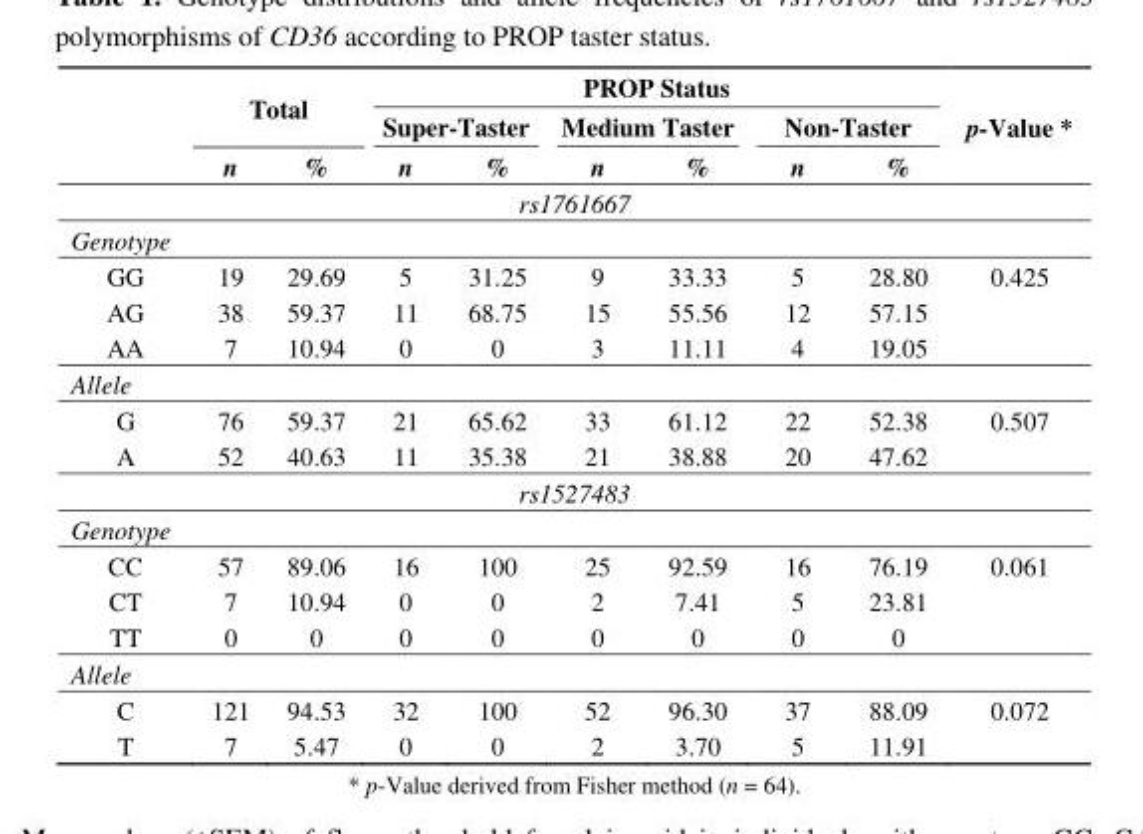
<table><thead><tr><td rowspan="3"></td><td rowspan="2" colspan="2">Total</td><td colspan="6">PROP Status</td><td rowspan="3">p-Value *</td></tr><tr><td colspan="2">Super-Taster</td><td colspan="2">Medium Taster</td><td colspan="2">Non-Taster</td></tr><tr><td>n</td><td>%</td><td>n</td><td>%</td><td>n</td><td>%</td><td>n</td><td>%</td></tr></thead><tbody><tr><td colspan="10">rs1761667</td></tr><tr><td colspan="10">Genotype</td></tr><tr><td>GG</td><td>19</td><td>29.69</td><td>5</td><td>31.25</td><td>9</td><td>33.33</td><td>5</td><td>28.80</td><td>0.425</td></tr><tr><td>AG</td><td>38</td><td>59.37</td><td>11</td><td>68.75</td><td>15</td><td>55.56</td><td>12</td><td>57.15</td><td></td></tr><tr><td>AA</td><td>7</td><td>10.94</td><td>0</td><td>0</td><td>3</td><td>11.11</td><td>4</td><td>19.05</td><td></td></tr><tr><td colspan="10">Allele</td></tr><tr><td>G</td><td>76</td><td>59.37</td><td>21</td><td>65.62</td><td>33</td><td>61.12</td><td>22</td><td>52.38</td><td>0.507</td></tr><tr><td>A</td><td>52</td><td>40.63</td><td>11</td><td>35.38</td><td>21</td><td>38.88</td><td>20</td><td>47.62</td><td></td></tr><tr><td colspan="10">rs1527483</td></tr><tr><td colspan="10">Genotype</td></tr><tr><td>CC</td><td>57</td><td>89.06</td><td>16</td><td>100</td><td>25</td><td>92.59</td><td>16</td><td>76.19</td><td>0.061</td></tr><tr><td>CT</td><td>7</td><td>10.94</td><td>0</td><td>0</td><td>2</td><td>7.41</td><td>5</td><td>23.81</td><td></td></tr><tr><td>TT</td><td>0</td><td>0</td><td>0</td><td>0</td><td>0</td><td>0</td><td>0</td><td>0</td><td></td></tr><tr><td colspan="10">Allele</td></tr><tr><td>C</td><td>121</td><td>94.53</td><td>32</td><td>100</td><td>52</td><td>96.30</td><td>37</td><td>88.09</td><td>0.072</td></tr><tr><td>T</td><td>7</td><td>5.47</td><td>0</td><td>0</td><td>2</td><td>3.70</td><td>5</td><td>11.91</td><td></td></tr></tbody></table>